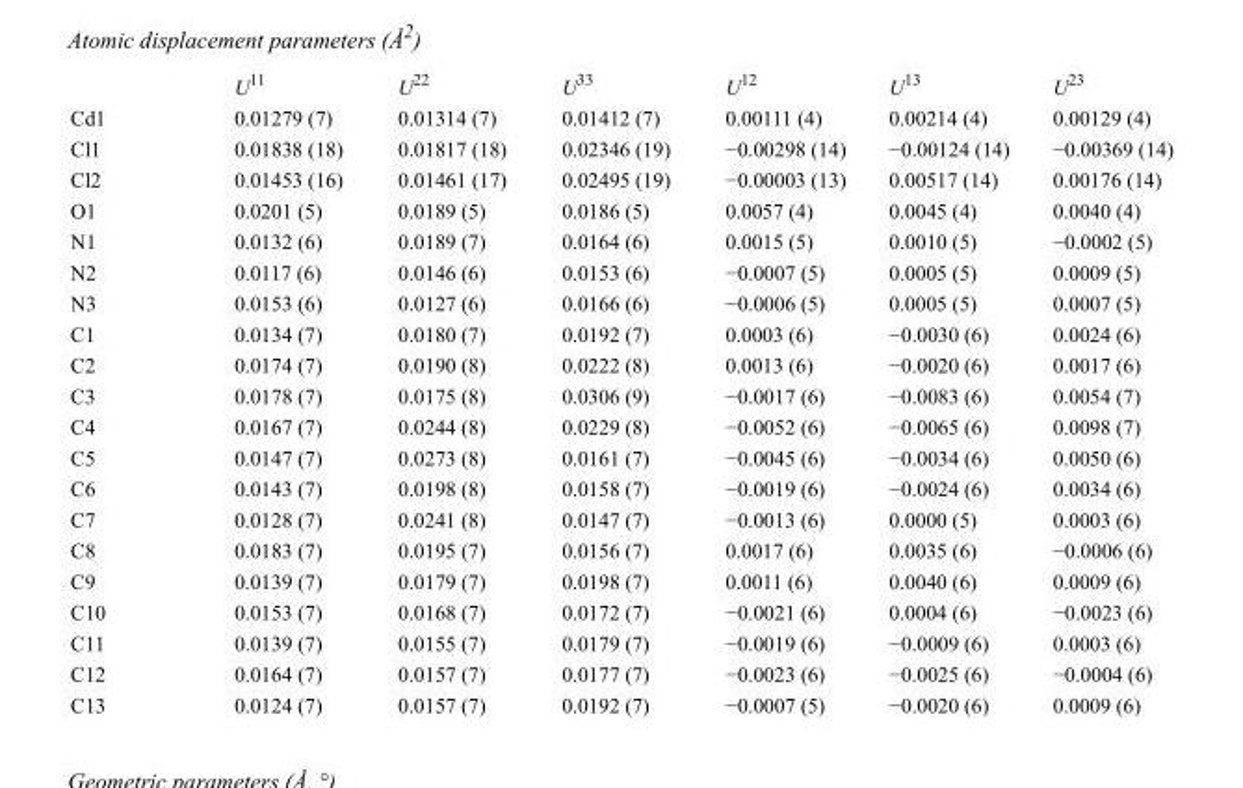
<table><thead><tr><td></td><td>U<sup>11</sup></td><td>U<sup>22</sup></td><td>U<sup>33</sup></td><td>U<sup>12</sup></td><td>U<sup>13</sup></td><td>U<sup>23</sup></td></tr></thead><tbody><tr><td>Cd1</td><td>0.01279 (7)</td><td>0.01314 (7)</td><td>0.01412 (7)</td><td>0.00111 (4)</td><td>0.00214 (4)</td><td>0.00129 (4)</td></tr><tr><td>Cl1</td><td>0.01838 (18)</td><td>0.01817 (18)</td><td>0.02346 (19)</td><td>−0.00298 (14)</td><td>−0.00124 (14)</td><td>−0.00369 (14)</td></tr><tr><td>Cl2</td><td>0.01453 (16)</td><td>0.01461 (17)</td><td>0.02495 (19)</td><td>−0.00003 (13)</td><td>0.00517 (14)</td><td>0.00176 (14)</td></tr><tr><td>O1</td><td>0.0201 (5)</td><td>0.0189 (5)</td><td>0.0186 (5)</td><td>0.0057 (4)</td><td>0.0045 (4)</td><td>0.0040 (4)</td></tr><tr><td>N1</td><td>0.0132 (6)</td><td>0.0189 (7)</td><td>0.0164 (6)</td><td>0.0015 (5)</td><td>0.0010 (5)</td><td>−0.0002 (5)</td></tr><tr><td>N2</td><td>0.0117 (6)</td><td>0.0146 (6)</td><td>0.0153 (6)</td><td>−0.0007 (5)</td><td>0.0005 (5)</td><td>0.0009 (5)</td></tr><tr><td>N3</td><td>0.0153 (6)</td><td>0.0127 (6)</td><td>0.0166 (6)</td><td>−0.0006 (5)</td><td>0.0005 (5)</td><td>0.0007 (5)</td></tr><tr><td>C1</td><td>0.0134 (7)</td><td>0.0180 (7)</td><td>0.0192 (7)</td><td>0.0003 (6)</td><td>−0.0030 (6)</td><td>0.0024 (6)</td></tr><tr><td>C2</td><td>0.0174 (7)</td><td>0.0190 (8)</td><td>0.0222 (8)</td><td>0.0013 (6)</td><td>−0.0020 (6)</td><td>0.0017 (6)</td></tr><tr><td>C3</td><td>0.0178 (7)</td><td>0.0175 (8)</td><td>0.0306 (9)</td><td>−0.0017 (6)</td><td>−0.0083 (6)</td><td>0.0054 (7)</td></tr><tr><td>C4</td><td>0.0167 (7)</td><td>0.0244 (8)</td><td>0.0229 (8)</td><td>−0.0052 (6)</td><td>−0.0065 (6)</td><td>0.0098 (7)</td></tr><tr><td>C5</td><td>0.0147 (7)</td><td>0.0273 (8)</td><td>0.0161 (7)</td><td>−0.0045 (6)</td><td>−0.0034 (6)</td><td>0.0050 (6)</td></tr><tr><td>C6</td><td>0.0143 (7)</td><td>0.0198 (8)</td><td>0.0158 (7)</td><td>−0.0019 (6)</td><td>−0.0024 (6)</td><td>0.0034 (6)</td></tr><tr><td>C7</td><td>0.0128 (7)</td><td>0.0241 (8)</td><td>0.0147 (7)</td><td>−0.0013 (6)</td><td>0.0000 (5)</td><td>0.0003 (6)</td></tr><tr><td>C8</td><td>0.0183 (7)</td><td>0.0195 (7)</td><td>0.0156 (7)</td><td>0.0017 (6)</td><td>0.0035 (6)</td><td>−0.0006 (6)</td></tr><tr><td>C9</td><td>0.0139 (7)</td><td>0.0179 (7)</td><td>0.0198 (7)</td><td>0.0011 (6)</td><td>0.0040 (6)</td><td>0.0009 (6)</td></tr><tr><td>C10</td><td>0.0153 (7)</td><td>0.0168 (7)</td><td>0.0172 (7)</td><td>−0.0021 (6)</td><td>0.0004 (6)</td><td>−0.0023 (6)</td></tr><tr><td>C11</td><td>0.0139 (7)</td><td>0.0155 (7)</td><td>0.0179 (7)</td><td>−0.0019 (6)</td><td>−0.0009 (6)</td><td>0.0003 (6)</td></tr><tr><td>C12</td><td>0.0164 (7)</td><td>0.0157 (7)</td><td>0.0177 (7)</td><td>−0.0023 (6)</td><td>−0.0025 (6)</td><td>−0.0004 (6)</td></tr><tr><td>C13</td><td>0.0124 (7)</td><td>0.0157 (7)</td><td>0.0192 (7)</td><td>−0.0007 (5)</td><td>−0.0020 (6)</td><td>0.0009 (6)</td></tr></tbody></table>